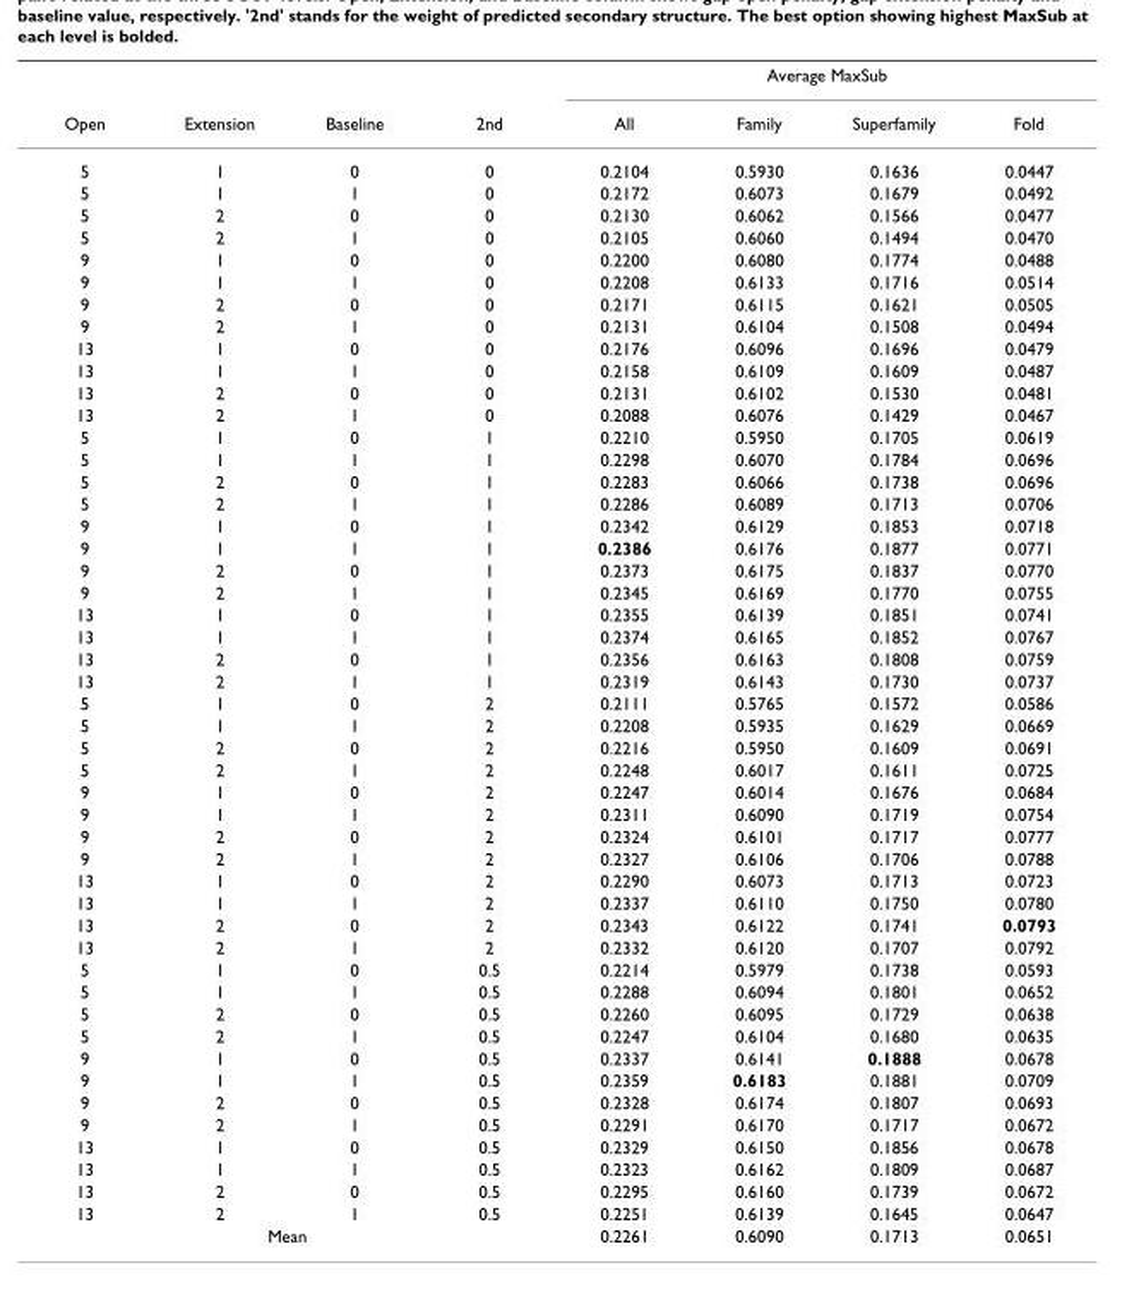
<table><thead><tr><td rowspan="2">Open</td><td rowspan="2">Extension</td><td rowspan="2">Baseline</td><td rowspan="2">2nd</td><td colspan="4">Average MaxSub</td></tr><tr><td>All</td><td>Family</td><td>Superfamily</td><td>Fold</td></tr></thead><tbody><tr><td>5</td><td>1</td><td>0</td><td>0</td><td>0.2104</td><td>0.5930</td><td>0.1636</td><td>0.0447</td></tr><tr><td>5</td><td>1</td><td>1</td><td>0</td><td>0.2172</td><td>0.6073</td><td>0.1679</td><td>0.0492</td></tr><tr><td>5</td><td>2</td><td>0</td><td>0</td><td>0.2130</td><td>0.6062</td><td>0.1566</td><td>0.0477</td></tr><tr><td>5</td><td>2</td><td>1</td><td>0</td><td>0.2105</td><td>0.6060</td><td>0.1494</td><td>0.0470</td></tr><tr><td>9</td><td>1</td><td>0</td><td>0</td><td>0.2200</td><td>0.6080</td><td>0.1774</td><td>0.0488</td></tr><tr><td>9</td><td>1</td><td>1</td><td>0</td><td>0.2208</td><td>0.6133</td><td>0.1716</td><td>0.0514</td></tr><tr><td>9</td><td>2</td><td>0</td><td>0</td><td>0.2171</td><td>0.6115</td><td>0.1621</td><td>0.0505</td></tr><tr><td>9</td><td>2</td><td>1</td><td>0</td><td>0.2131</td><td>0.6104</td><td>0.1508</td><td>0.0494</td></tr><tr><td>13</td><td>1</td><td>0</td><td>0</td><td>0.2176</td><td>0.6096</td><td>0.1696</td><td>0.0479</td></tr><tr><td>13</td><td>1</td><td>1</td><td>0</td><td>0.2158</td><td>0.6109</td><td>0.1609</td><td>0.0487</td></tr><tr><td>13</td><td>2</td><td>0</td><td>0</td><td>0.2131</td><td>0.6102</td><td>0.1530</td><td>0.0481</td></tr><tr><td>13</td><td>2</td><td>1</td><td>0</td><td>0.2088</td><td>0.6076</td><td>0.1429</td><td>0.0467</td></tr><tr><td>5</td><td>1</td><td>0</td><td>1</td><td>0.2210</td><td>0.5950</td><td>0.1705</td><td>0.0619</td></tr><tr><td>5</td><td>1</td><td>1</td><td>1</td><td>0.2298</td><td>0.6070</td><td>0.1784</td><td>0.0696</td></tr><tr><td>5</td><td>2</td><td>0</td><td>1</td><td>0.2283</td><td>0.6066</td><td>0.1738</td><td>0.0696</td></tr><tr><td>5</td><td>2</td><td>1</td><td>1</td><td>0.2286</td><td>0.6089</td><td>0.1713</td><td>0.0706</td></tr><tr><td>9</td><td>1</td><td>0</td><td>1</td><td>0.2342</td><td>0.6129</td><td>0.1853</td><td>0.0718</td></tr><tr><td>9</td><td>1</td><td>1</td><td>1</td><td>0.2386</td><td>0.6176</td><td>0.1877</td><td>0.0771</td></tr><tr><td>9</td><td>2</td><td>0</td><td>1</td><td>0.2373</td><td>0.6175</td><td>0.1837</td><td>0.0770</td></tr><tr><td>9</td><td>2</td><td>1</td><td>1</td><td>0.2345</td><td>0.6169</td><td>0.1770</td><td>0.0755</td></tr><tr><td>13</td><td>1</td><td>0</td><td>1</td><td>0.2355</td><td>0.6139</td><td>0.1851</td><td>0.0741</td></tr><tr><td>13</td><td>1</td><td>1</td><td>1</td><td>0.2374</td><td>0.6165</td><td>0.1852</td><td>0.0767</td></tr><tr><td>13</td><td>2</td><td>0</td><td>1</td><td>0.2356</td><td>0.6163</td><td>0.1808</td><td>0.0759</td></tr><tr><td>13</td><td>2</td><td>1</td><td>1</td><td>0.2319</td><td>0.6143</td><td>0.1730</td><td>0.0737</td></tr><tr><td>5</td><td>1</td><td>0</td><td>2</td><td>0.2111</td><td>0.5765</td><td>0.1572</td><td>0.0586</td></tr><tr><td>5</td><td>1</td><td>1</td><td>2</td><td>0.2208</td><td>0.5935</td><td>0.1629</td><td>0.0669</td></tr><tr><td>5</td><td>2</td><td>0</td><td>2</td><td>0.2216</td><td>0.5950</td><td>0.1609</td><td>0.0691</td></tr><tr><td>5</td><td>2</td><td>1</td><td>2</td><td>0.2248</td><td>0.6017</td><td>0.1611</td><td>0.0725</td></tr><tr><td>9</td><td>1</td><td>0</td><td>2</td><td>0.2247</td><td>0.6014</td><td>0.1676</td><td>0.0684</td></tr><tr><td>9</td><td>1</td><td>1</td><td>2</td><td>0.2311</td><td>0.6090</td><td>0.1719</td><td>0.0754</td></tr><tr><td>9</td><td>2</td><td>0</td><td>2</td><td>0.2324</td><td>0.6101</td><td>0.1717</td><td>0.0777</td></tr><tr><td>9</td><td>2</td><td>1</td><td>2</td><td>0.2327</td><td>0.6106</td><td>0.1706</td><td>0.0788</td></tr><tr><td>13</td><td>1</td><td>0</td><td>2</td><td>0.2290</td><td>0.6073</td><td>0.1713</td><td>0.0723</td></tr><tr><td>13</td><td>1</td><td>1</td><td>2</td><td>0.2337</td><td>0.6110</td><td>0.1750</td><td>0.0780</td></tr><tr><td>13</td><td>2</td><td>0</td><td>2</td><td>0.2343</td><td>0.6122</td><td>0.1741</td><td>0.0793</td></tr><tr><td>13</td><td>2</td><td>1</td><td>2</td><td>0.2332</td><td>0.6120</td><td>0.1707</td><td>0.0792</td></tr><tr><td>5</td><td>1</td><td>0</td><td>0.5</td><td>0.2214</td><td>0.5979</td><td>0.1738</td><td>0.0593</td></tr><tr><td>5</td><td>1</td><td>1</td><td>0.5</td><td>0.2288</td><td>0.6094</td><td>0.1801</td><td>0.0652</td></tr><tr><td>5</td><td>2</td><td>0</td><td>0.5</td><td>0.2260</td><td>0.6095</td><td>0.1729</td><td>0.0638</td></tr><tr><td>5</td><td>2</td><td>1</td><td>0.5</td><td>0.2247</td><td>0.6104</td><td>0.1680</td><td>0.0635</td></tr><tr><td>9</td><td>1</td><td>0</td><td>0.5</td><td>0.2337</td><td>0.6141</td><td>0.1888</td><td>0.0678</td></tr><tr><td>9</td><td>1</td><td>1</td><td>0.5</td><td>0.2359</td><td>0.6183</td><td>0.1881</td><td>0.0709</td></tr><tr><td>9</td><td>2</td><td>0</td><td>0.5</td><td>0.2328</td><td>0.6174</td><td>0.1807</td><td>0.0693</td></tr><tr><td>9</td><td>2</td><td>1</td><td>0.5</td><td>0.2291</td><td>0.6170</td><td>0.1717</td><td>0.0672</td></tr><tr><td>13</td><td>1</td><td>0</td><td>0.5</td><td>0.2329</td><td>0.6150</td><td>0.1856</td><td>0.0678</td></tr><tr><td>13</td><td>1</td><td>1</td><td>0.5</td><td>0.2323</td><td>0.6162</td><td>0.1809</td><td>0.0687</td></tr><tr><td>13</td><td>2</td><td>0</td><td>0.5</td><td>0.2295</td><td>0.6160</td><td>0.1739</td><td>0.0672</td></tr><tr><td>13</td><td>2</td><td>1</td><td>0.5</td><td>0.2251</td><td>0.6139</td><td>0.1645</td><td>0.0647</td></tr><tr><td colspan="4">Mean</td><td>0.2261</td><td>0.6090</td><td>0.1713</td><td>0.0651</td></tr></tbody></table>